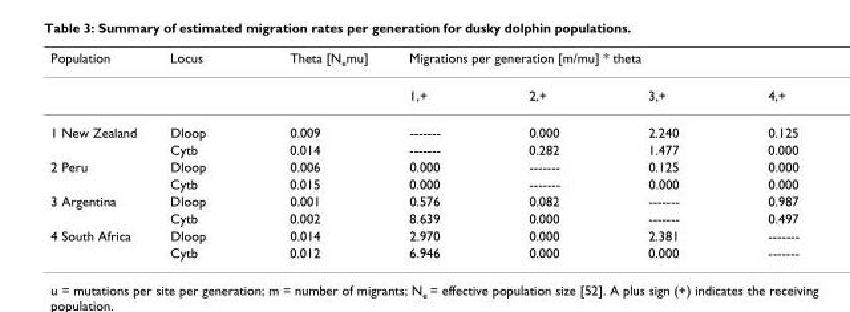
<table><thead><tr><td rowspan="2">Population</td><td rowspan="2">Locus</td><td rowspan="2">Theta [N<sub>e</sub>mu]</td><td colspan="4">Migrations per generation [m/mu] * theta</td></tr><tr><td>1,+</td><td>2,+</td><td>3,+</td><td>4,+</td></tr></thead><tbody><tr><td rowspan="2">1 New Zealand</td><td>Dloop</td><td>0.009</td><td>-------</td><td>0.000</td><td>2.240</td><td>0.125</td></tr><tr><td>Cytb</td><td>0.014</td><td>-------</td><td>0.282</td><td>1.477</td><td>0.000</td></tr><tr><td rowspan="2">2 Peru</td><td>Dloop</td><td>0.006</td><td>0.000</td><td>-------</td><td>0.125</td><td>0.000</td></tr><tr><td>Cytb</td><td>0.015</td><td>0.000</td><td>-------</td><td>0.000</td><td>0.000</td></tr><tr><td rowspan="2">3 Argentina</td><td>Dloop</td><td>0.001</td><td>0.576</td><td>0.082</td><td>-------</td><td>0.987</td></tr><tr><td>Cytb</td><td>0.002</td><td>8.639</td><td>0.000</td><td>-------</td><td>0.497</td></tr><tr><td rowspan="2">4 South Africa</td><td>Dloop</td><td>0.014</td><td>2.970</td><td>0.000</td><td>2.381</td><td>-------</td></tr><tr><td>Cytb</td><td>0.012</td><td>6.946</td><td>0.000</td><td>0.000</td><td>-------</td></tr></tbody></table>